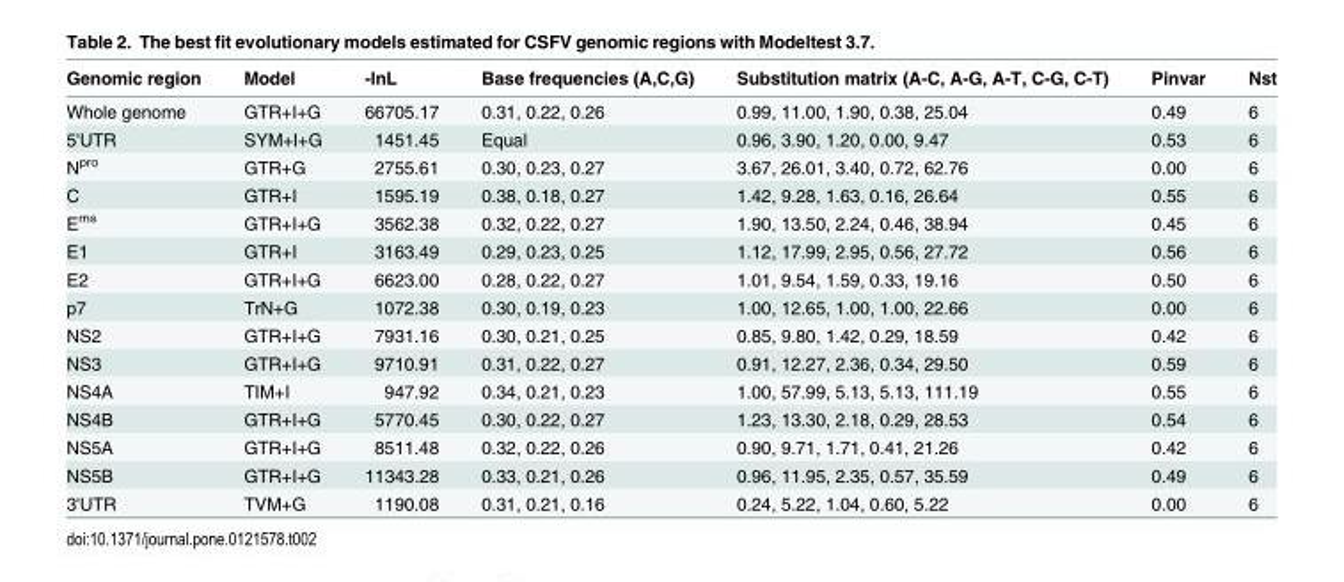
<table><thead><tr><td>Genomic region</td><td>Model</td><td>-lnL</td><td>Base frequencies (A,C,G)</td><td>Substitution matrix (A-C, A-G, A-T, C-G, C-T)</td><td>Pinvar</td><td>Nst</td></tr></thead><tbody><tr><td>Whole genome</td><td>GTR+I+G</td><td>66705.17</td><td>0.31, 0.22, 0.26</td><td>0.99, 11.00, 1.90, 0.38, 25.04</td><td>0.49</td><td>6</td></tr><tr><td>5&#x27;UTR</td><td>SYM+I+G</td><td>1451.45</td><td>Equal</td><td>0.96, 3.90, 1.20, 0.00, 9.47</td><td>0.53</td><td>6</td></tr><tr><td>N<sup>pro</sup></td><td>GTR+G</td><td>2755.61</td><td>0.30, 0.23, 0.27</td><td>3.67, 26.01, 3.40, 0.72, 62.76</td><td>0.00</td><td>6</td></tr><tr><td>C</td><td>GTR+I</td><td>1595.19</td><td>0.38, 0.18, 0.27</td><td>1.42, 9.28, 1.63, 0.16, 26.64</td><td>0.55</td><td>6</td></tr><tr><td>E<sup>rns</sup></td><td>GTR+I+G</td><td>3562.38</td><td>0.32, 0.22, 0.27</td><td>1.90, 13.50, 2.24, 0.46, 38.94</td><td>0.45</td><td>6</td></tr><tr><td>E1</td><td>GTR+I</td><td>3163.49</td><td>0.29, 0.23, 0.25</td><td>1.12, 17.99, 2.95, 0.56, 27.72</td><td>0.56</td><td>6</td></tr><tr><td>E2</td><td>GTR+I+G</td><td>6623.00</td><td>0.28, 0.22, 0.27</td><td>1.01, 9.54, 1.59, 0.33, 19.16</td><td>0.50</td><td>6</td></tr><tr><td>p7</td><td>TrN+G</td><td>1072.38</td><td>0.30, 0.19, 0.23</td><td>1.00, 12.65, 1.00, 1.00, 22.66</td><td>0.00</td><td>6</td></tr><tr><td>NS2</td><td>GTR+I+G</td><td>7931.16</td><td>0.30, 0.21, 0.25</td><td>0.85, 9.80, 1.42, 0.29, 18.59</td><td>0.42</td><td>6</td></tr><tr><td>NS3</td><td>GTR+I+G</td><td>9710.91</td><td>0.31, 0.22, 0.27</td><td>0.91, 12.27, 2.36, 0.34, 29.50</td><td>0.59</td><td>6</td></tr><tr><td>NS4A</td><td>TIM+I</td><td>947.92</td><td>0.34, 0.21, 0.23</td><td>1.00, 57.99, 5.13, 5.13, 111.19</td><td>0.55</td><td>6</td></tr><tr><td>NS4B</td><td>GTR+I+G</td><td>5770.45</td><td>0.30, 0.22, 0.27</td><td>1.23, 13.30, 2.18, 0.29, 28.53</td><td>0.54</td><td>6</td></tr><tr><td>NS5A</td><td>GTR+I+G</td><td>8511.48</td><td>0.32, 0.22, 0.26</td><td>0.90, 9.71, 1.71, 0.41, 21.26</td><td>0.42</td><td>6</td></tr><tr><td>NS5B</td><td>GTR+I+G</td><td>11343.28</td><td>0.33, 0.21, 0.26</td><td>0.96, 11.95, 2.35, 0.57, 35.59</td><td>0.49</td><td>6</td></tr><tr><td>3&#x27;UTR</td><td>TVM+G</td><td>1190.08</td><td>0.31, 0.21, 0.16</td><td>0.24, 5.22, 1.04, 0.60, 5.22</td><td>0.00</td><td>6</td></tr></tbody></table>